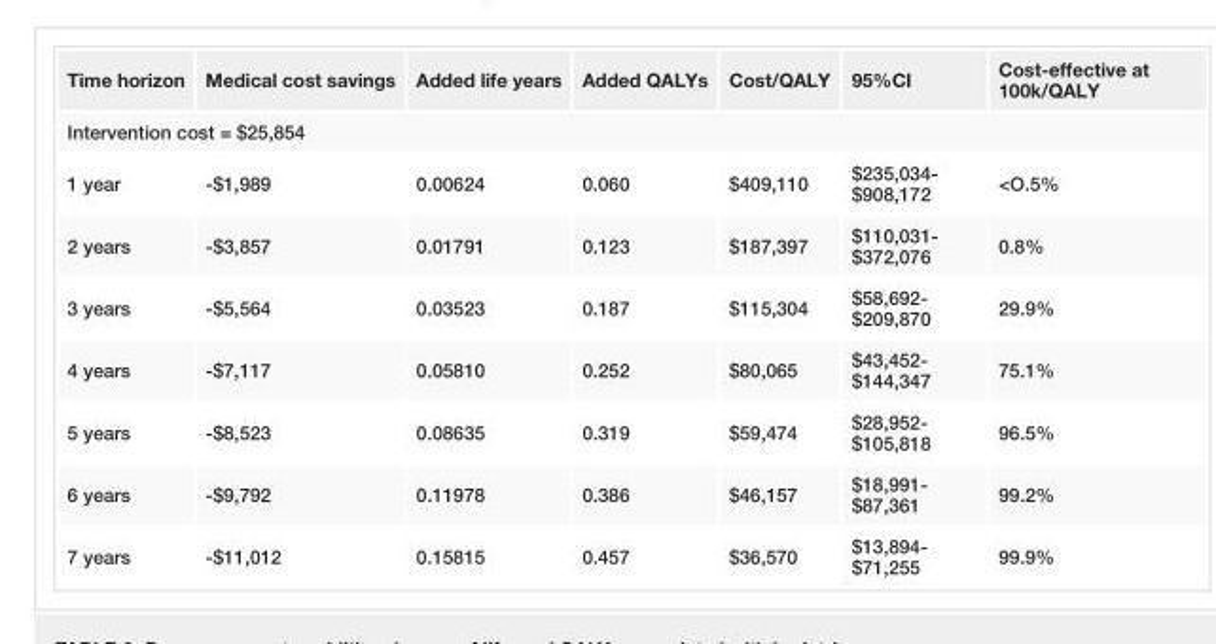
<table><tbody><tr><td>Time horizon</td><td>Medical cost savings</td><td>Added life years</td><td>Added QALYs</td><td>Cost/QALY</td><td>95%CI</td><td>Cost-effective at 100k/QALY</td></tr><tr><td colspan="7">Intervention cost = $25,854</td></tr><tr><td>1 year</td><td>-$1,989</td><td>0.00624</td><td>0.060</td><td>$409,110</td><td>$235,034- $908,172</td><td>&lt;O.5%</td></tr><tr><td>2 years</td><td>-$3,857</td><td>0.01791</td><td>0.123</td><td>$187,397</td><td>$110,031- $372,076</td><td>0.8%</td></tr><tr><td>3 years</td><td>-$5,564</td><td>0.03523</td><td>0.187</td><td>$115,304</td><td>$58,692- $209,870</td><td>29.9%</td></tr><tr><td>4 years</td><td>-$7,117</td><td>0.05810</td><td>0.252</td><td>$80,065</td><td>$43,452- $144,347</td><td>75.1%</td></tr><tr><td>5 years</td><td>-$8,523</td><td>0.08635</td><td>0.319</td><td>$59,474</td><td>$28,952- $105,818</td><td>96.5%</td></tr><tr><td>6 years</td><td>-$9,792</td><td>0.11978</td><td>0.386</td><td>$46,157</td><td>$18,991- $87,361</td><td>99.2%</td></tr><tr><td>7 years</td><td>-$11,012</td><td>0.15815</td><td>0.457</td><td>$36,570</td><td>$13,894- $71,255</td><td>99.9%</td></tr></tbody></table>